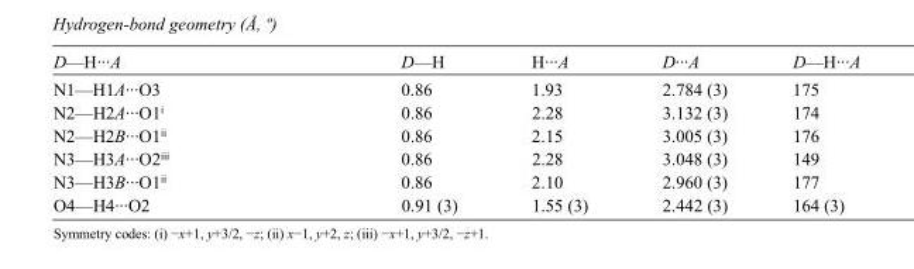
<table><tbody><tr><td>D—H···A</td><td>D—H</td><td>H···A</td><td>D···A</td><td>D—H···A</td></tr><tr><td>N1—H1A···O3</td><td>0.86</td><td>1.93</td><td>2.784 (3)</td><td>175</td></tr><tr><td>N2—H2A···O1<sup>i</sup></td><td>0.86</td><td>2.28</td><td>3.132 (3)</td><td>174</td></tr><tr><td>N2—H2B···O1<sup>ii</sup></td><td>0.86</td><td>2.15</td><td>3.005 (3)</td><td>176</td></tr><tr><td>N3—H3A···O2<sup>iii</sup></td><td>0.86</td><td>2.28</td><td>3.048 (3)</td><td>149</td></tr><tr><td>N3—H3B···O1<sup>ii</sup></td><td>0.86</td><td>2.10</td><td>2.960 (3)</td><td>177</td></tr><tr><td>O4—H4···O2</td><td>0.91 (3)</td><td>1.55 (3)</td><td>2.442 (3)</td><td>164 (3)</td></tr></tbody></table>